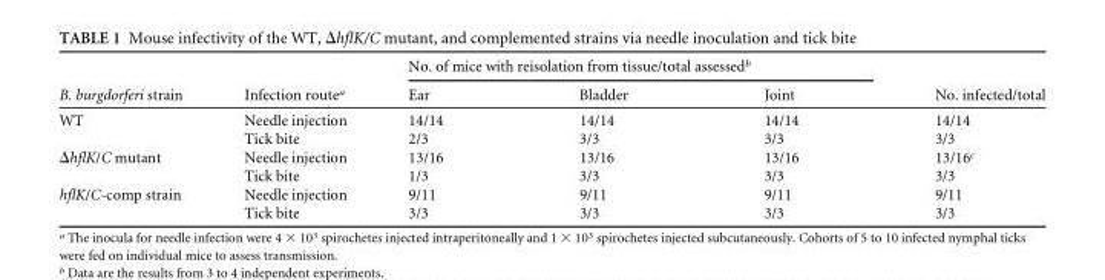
<table><thead><tr><td rowspan="2">B. burgdorferi strain</td><td rowspan="2">Infection route<sup>a</sup></td><td colspan="3">No. of mice with reisolation from tissue/total assessed<sup>b</sup></td><td rowspan="2">No. infected/total</td></tr><tr><td>Ear</td><td>Bladder</td><td>Joint</td></tr></thead><tbody><tr><td rowspan="2">WT</td><td>Needle injection</td><td>14/14</td><td>14/14</td><td>14/14</td><td>14/14</td></tr><tr><td>Tick bite</td><td>2/3</td><td>3/3</td><td>3/3</td><td>3/3</td></tr><tr><td rowspan="2">ΔhflK/C mutant</td><td>Needle injection</td><td>13/16</td><td>13/16</td><td>13/16</td><td>13/16<sup>c</sup></td></tr><tr><td>Tick bite</td><td>1/3</td><td>3/3</td><td>3/3</td><td>3/3</td></tr><tr><td rowspan="2">hflK/C-comp strain</td><td>Needle injection</td><td>9/11</td><td>9/11</td><td>9/11</td><td>9/11</td></tr><tr><td>Tick bite</td><td>3/3</td><td>3/3</td><td>3/3</td><td>3/3</td></tr></tbody></table>